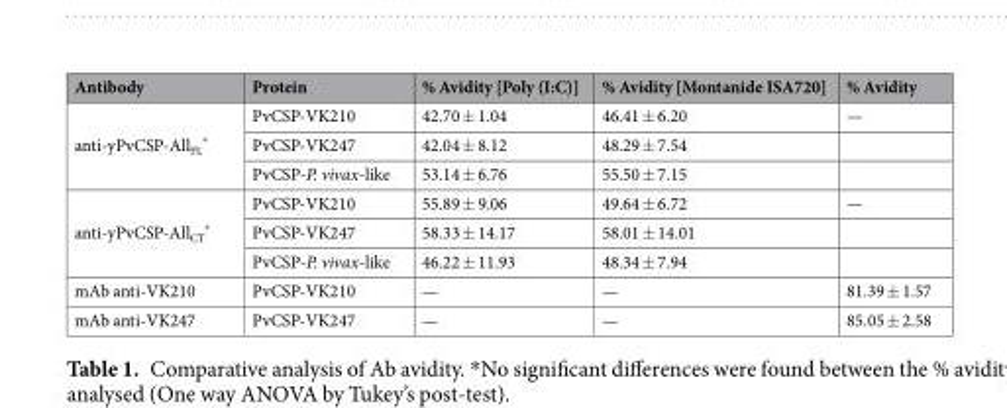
<table><thead><tr><td>Antibody</td><td>Protein</td><td>% Avidity [Poly (I:C)]</td><td>% Avidity [Montanide ISA720]</td><td>% Avidity</td></tr></thead><tbody><tr><td rowspan="3">anti-yPvCSP-All<sub>FL</sub> *</td><td>PvCSP-VK210</td><td>42.70 ± 1.04</td><td>46.41 ± 6.20</td><td>—</td></tr><tr><td>PvCSP-VK247</td><td>42.04 ± 8.12</td><td>48.29 ± 7.54</td><td></td></tr><tr><td>PvCSP-P. vivax-like</td><td>53.14 ± 6.76</td><td>55.50 ± 7.15</td><td></td></tr><tr><td rowspan="3">anti-yPvCSP-All<sub>CT</sub> *</td><td>PvCSP-VK210</td><td>55.89 ± 9.06</td><td>49.64 ± 6.72</td><td>—</td></tr><tr><td>PvCSP-VK247</td><td>58.33 ± 14.17</td><td>58.01 ± 14.01</td><td></td></tr><tr><td>PvCSP-P. vivax-like</td><td>46.22 ± 11.93</td><td>48.34 ± 7.94</td><td></td></tr><tr><td>mAb anti-VK210</td><td>PvCSP-VK210</td><td>—</td><td>—</td><td>81.39 ± 1.57</td></tr><tr><td>mAb anti-VK247</td><td>PvCSP-VK247</td><td>—</td><td>—</td><td>85.05 ± 2.58</td></tr></tbody></table>